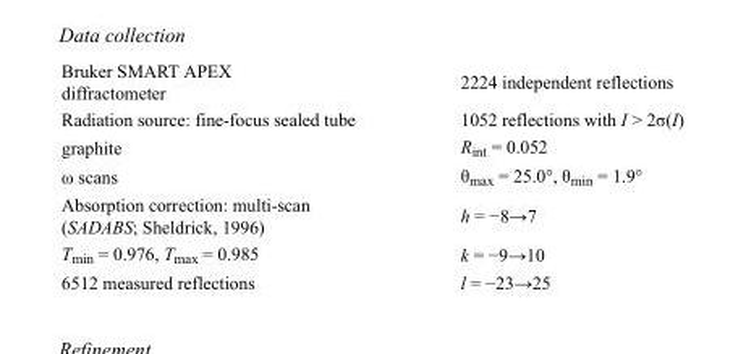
<table><tbody><tr><td>Bruker SMART APEX diffractometer</td><td>2224 independent reflections</td></tr><tr><td>Radiation source: fine-focus sealed tube</td><td>1052 reflections with I &gt; 2σ(I)</td></tr><tr><td>graphite</td><td>R<sub>int</sub> = 0.052</td></tr><tr><td>ω scans</td><td>θ<sub>max</sub> = 25.0°, θ<sub>min</sub> = 1.9°</td></tr><tr><td>Absorption correction: multi-scan (SADABS; Sheldrick, 1996)</td><td>h = −8→7</td></tr><tr><td>T<sub>min</sub> = 0.976, T<sub>max</sub> = 0.985</td><td>k = −9→10</td></tr><tr><td>6512 measured reflections</td><td>l = −23→25</td></tr></tbody></table>